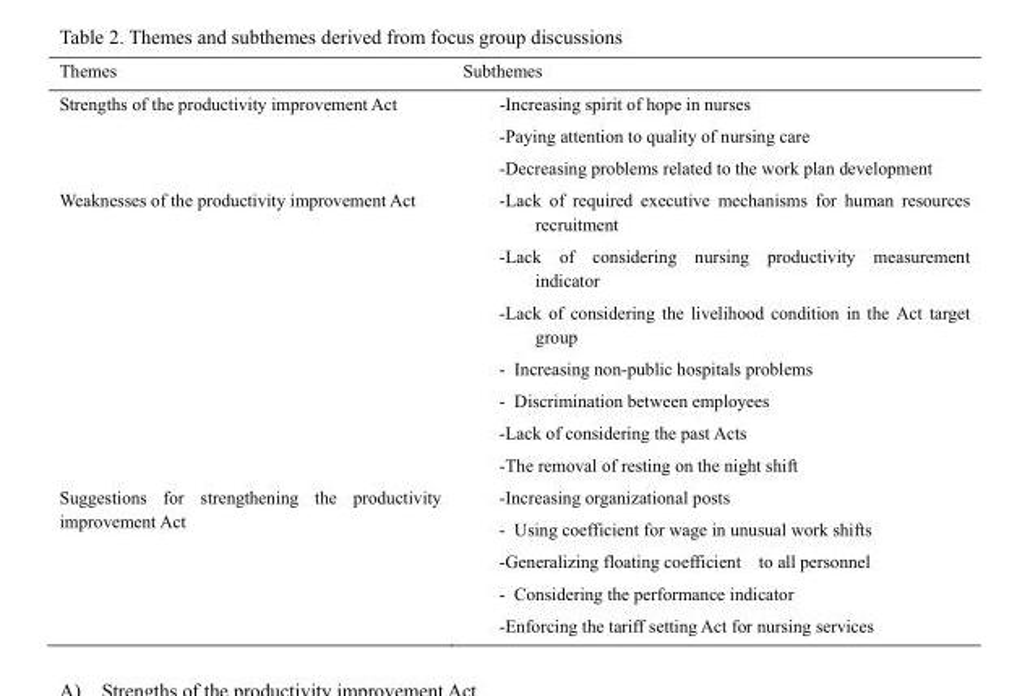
<table><thead><tr><td>Themes</td><td>Subthemes</td></tr></thead><tbody><tr><td>Strengths of the productivity improvement Act</td><td>-Increasing spirit of hope in nurses -Paying attention to quality of nursing care -Decreasing problems related to the work plan development</td></tr><tr><td>Weaknesses of the productivity improvement Act</td><td>-Lack of required executive mechanisms for human resources recruitment -Lack of considering nursing productivity measurement indicator -Lack of considering the livelihood condition in the Act target group - Increasing non-public hospitals problems - Discrimination between employees -Lack of considering the past Acts -The removal of resting on the night shift</td></tr><tr><td>Suggestions for strengthening the productivity improvement Act</td><td>-Increasing organizational posts - Using coefficient for wage in unusual work shifts -Generalizing floating coefficient to all personnel - Considering the performance indicator -Enforcing the tariff setting Act for nursing services</td></tr></tbody></table>